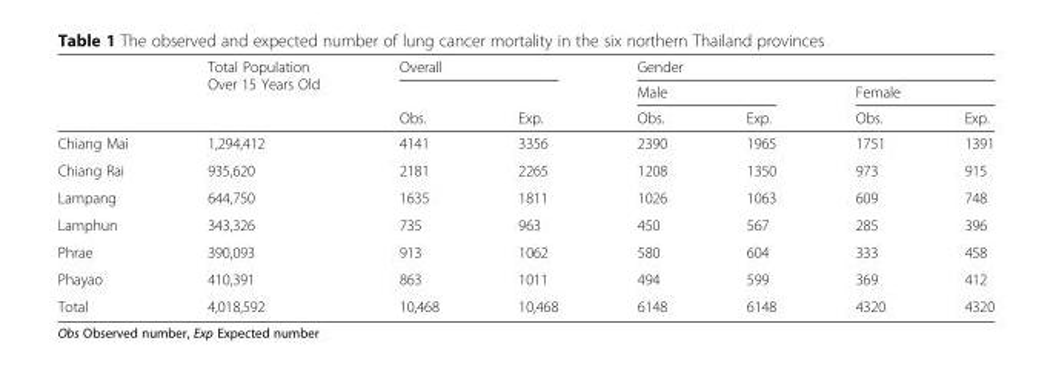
<table><thead><tr><td rowspan="3"></td><td rowspan="3">Total Population Over 15 Years Old</td><td colspan="2">Overall</td><td colspan="4">Gender</td></tr><tr><td rowspan="2">Obs.</td><td rowspan="2">Exp.</td><td colspan="2">Male</td><td colspan="2">Female</td></tr><tr><td>Obs.</td><td>Exp.</td><td>Obs.</td><td>Exp.</td></tr></thead><tbody><tr><td>Chiang Mai</td><td>1,294,412</td><td>4141</td><td>3356</td><td>2390</td><td>1965</td><td>1751</td><td>1391</td></tr><tr><td>Chiang Rai</td><td>935,620</td><td>2181</td><td>2265</td><td>1208</td><td>1350</td><td>973</td><td>915</td></tr><tr><td>Lampang</td><td>644,750</td><td>1635</td><td>1811</td><td>1026</td><td>1063</td><td>609</td><td>748</td></tr><tr><td>Lamphun</td><td>343,326</td><td>735</td><td>963</td><td>450</td><td>567</td><td>285</td><td>396</td></tr><tr><td>Phrae</td><td>390,093</td><td>913</td><td>1062</td><td>580</td><td>604</td><td>333</td><td>458</td></tr><tr><td>Phayao</td><td>410,391</td><td>863</td><td>1011</td><td>494</td><td>599</td><td>369</td><td>412</td></tr><tr><td>Total</td><td>4,018,592</td><td>10,468</td><td>10,468</td><td>6148</td><td>6148</td><td>4320</td><td>4320</td></tr></tbody></table>